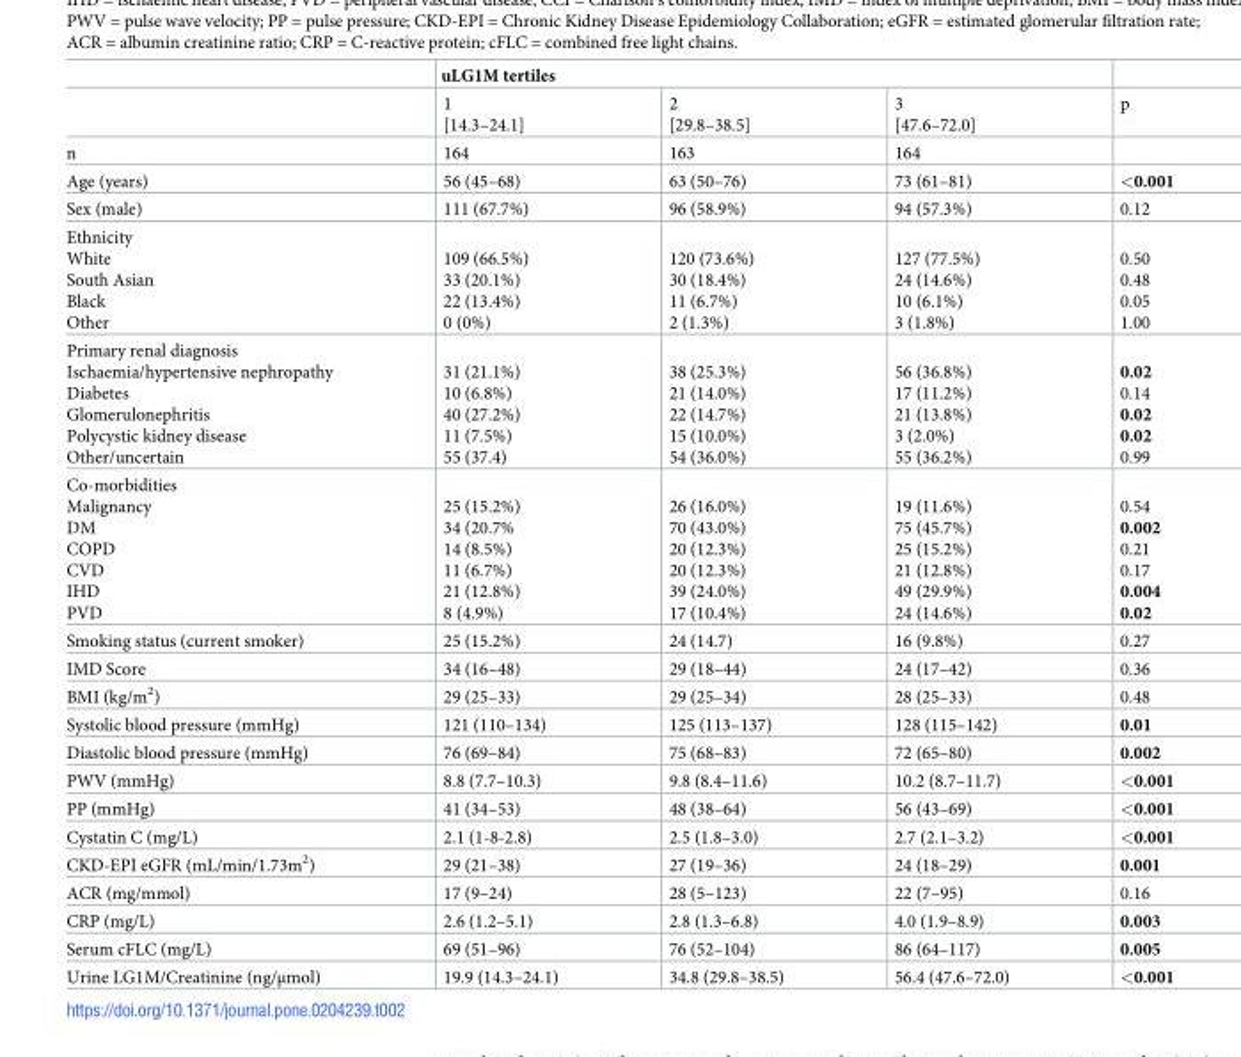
<table><thead><tr><td rowspan="2"></td><td colspan="3">uLG1M tertiles</td><td rowspan="2">p</td></tr><tr><td>1 [14.3–24.1]</td><td>2 [29.8–38.5]</td><td>3 [47.6–72.0]</td></tr></thead><tbody><tr><td>n</td><td>164</td><td>163</td><td>164</td><td></td></tr><tr><td>Age (years)</td><td>56 (45–68)</td><td>63 (50–76)</td><td>73 (61–81)</td><td>&lt;0.001</td></tr><tr><td>Sex (male)</td><td>111 (67.7%)</td><td>96 (58.9%)</td><td>94 (57.3%)</td><td>0.12</td></tr><tr><td>Ethnicity White South Asian Black Other</td><td>109 (66.5%) 33 (20.1%) 22 (13.4%) 0 (0%)</td><td>120 (73.6%) 30 (18.4%) 11 (6.7%) 2 (1.3%)</td><td>127 (77.5%) 24 (14.6%) 10 (6.1%) 3 (1.8%)</td><td>0.50 0.48 0.05 1.00</td></tr><tr><td>Primary renal diagnosis Ischaemia/hypertensive nephropathy Diabetes Glomerulonephritis Polycystic kidney disease Other/uncertain</td><td>31 (21.1%) 10 (6.8%) 40 (27.2%) 11 (7.5%) 55 (37.4)</td><td>38 (25.3%) 21 (14.0%) 22 (14.7%) 15 (10.0%) 54 (36.0%)</td><td>56 (36.8%) 17 (11.2%) 21 (13.8%) 3 (2.0%) 55 (36.2%)</td><td>0.02 0.14 0.02 0.02 0.99</td></tr><tr><td>Co-morbidities Malignancy DM COPD CVD IHD PVD</td><td>25 (15.2%) 34 (20.7% 14 (8.5%) 11 (6.7%) 21 (12.8%) 8 (4.9%)</td><td>26 (16.0%) 70 (43.0%) 20 (12.3%) 20 (12.3%) 39 (24.0%) 17 (10.4%)</td><td>19 (11.6%) 75 (45.7%) 25 (15.2%) 21 (12.8%) 49 (29.9%) 24 (14.6%)</td><td>0.54 0.002 0.21 0.17 0.004 0.02</td></tr><tr><td>Smoking status (current smoker)</td><td>25 (15.2%)</td><td>24 (14.7)</td><td>16 (9.8%)</td><td>0.27</td></tr><tr><td>IMD Score</td><td>34 (16–48)</td><td>29 (18–44)</td><td>24 (17–42)</td><td>0.36</td></tr><tr><td>BMI (kg/m<sup>2</sup>)</td><td>29 (25–33)</td><td>29 (25–34)</td><td>28 (25–33)</td><td>0.48</td></tr><tr><td>Systolic blood pressure (mmHg)</td><td>121 (110–134)</td><td>125 (113–137)</td><td>128 (115–142)</td><td>0.01</td></tr><tr><td>Diastolic blood pressure (mmHg)</td><td>76 (69–84)</td><td>75 (68–83)</td><td>72 (65–80)</td><td>0.002</td></tr><tr><td>PWV (mmHg)</td><td>8.8 (7.7–10.3)</td><td>9.8 (8.4–11.6)</td><td>10.2 (8.7–11.7)</td><td>&lt;0.001</td></tr><tr><td>PP (mmHg)</td><td>41 (34–53)</td><td>48 (38–64)</td><td>56 (43–69)</td><td>&lt;0.001</td></tr><tr><td>Cystatin C (mg/L)</td><td>2.1 (1-8-2.8)</td><td>2.5 (1.8–3.0)</td><td>2.7 (2.1–3.2)</td><td>&lt;0.001</td></tr><tr><td>CKD-EPI eGFR (mL/min/1.73m<sup>2</sup>)</td><td>29 (21–38)</td><td>27 (19–36)</td><td>24 (18–29)</td><td>0.001</td></tr><tr><td>ACR (mg/mmol)</td><td>17 (9–24)</td><td>28 (5–123)</td><td>22 (7–95)</td><td>0.16</td></tr><tr><td>CRP (mg/L)</td><td>2.6 (1.2–5.1)</td><td>2.8 (1.3–6.8)</td><td>4.0 (1.9–8.9)</td><td>0.003</td></tr><tr><td>Serum cFLC (mg/L)</td><td>69 (51–96)</td><td>76 (52–104)</td><td>86 (64–117)</td><td>0.005</td></tr><tr><td>Urine LG1M/Creatinine (ng/μmol)</td><td>19.9 (14.3–24.1)</td><td>34.8 (29.8–38.5)</td><td>56.4 (47.6–72.0)</td><td>&lt;0.001</td></tr></tbody></table>